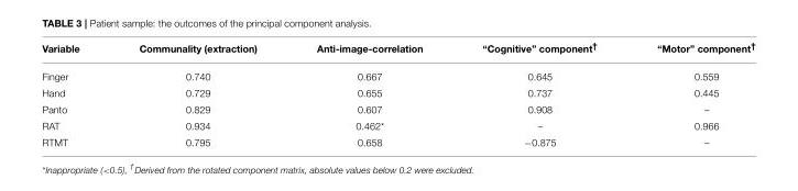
<table><thead><tr><td>Variable</td><td>Communality (extraction)</td><td>Anti-image-correlation</td><td>“Cognitive” component<sup>†</sup></td><td>“Motor” component<sup>†</sup></td></tr></thead><tbody><tr><td>Finger</td><td>0.740</td><td>0.667</td><td>0.645</td><td>0.559</td></tr><tr><td>Hand</td><td>0.729</td><td>0.655</td><td>0.737</td><td>0.445</td></tr><tr><td>Panto</td><td>0.829</td><td>0.607</td><td>0.908</td><td>–</td></tr><tr><td>RAT</td><td>0.934</td><td>0.462*</td><td>–</td><td>0.966</td></tr><tr><td>RTMT</td><td>0.795</td><td>0.658</td><td>−0.875</td><td>–</td></tr></tbody></table>